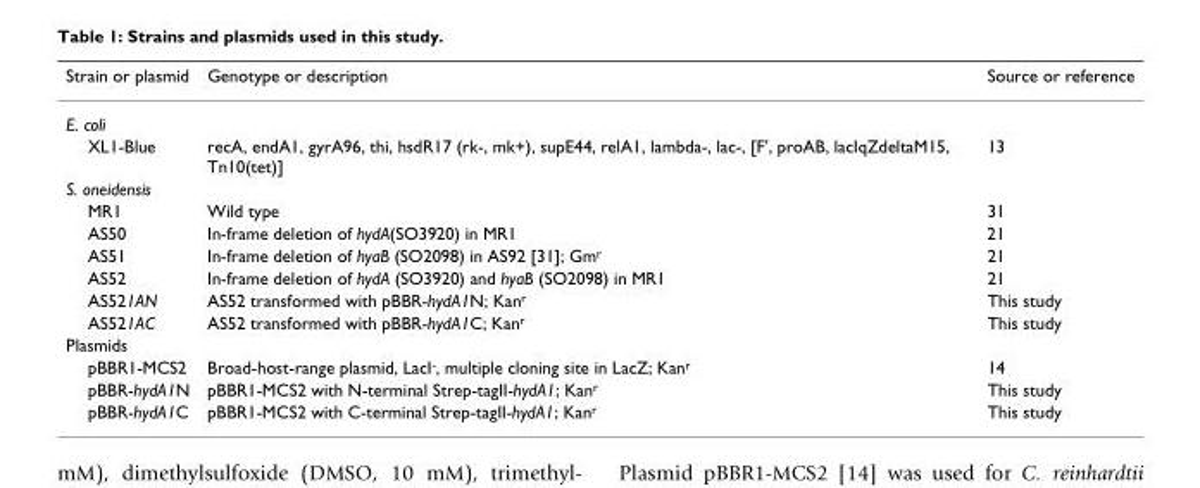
<table><thead><tr><td>Strain or plasmid</td><td>Genotype or description</td><td>Source or reference</td></tr></thead><tbody><tr><td colspan="3">E. coli</td></tr><tr><td>XL1-Blue</td><td>recA, endA1, gyrA96, thi, hsdR17 (rk-, mk+), supE44, relA1, lambda-, lac-, [F&#x27;, proAB, lacIqZdeltaM15, Tn10(tet)]</td><td>13</td></tr><tr><td colspan="3">S. oneidensis</td></tr><tr><td>MR1</td><td>Wild type</td><td>31</td></tr><tr><td>AS50</td><td>In-frame deletion of hydA(SO3920) in MR1</td><td>21</td></tr><tr><td>AS51</td><td>In-frame deletion of hyaB (SO2098) in AS92 [31]; Gm<sup>r</sup></td><td>21</td></tr><tr><td>AS52</td><td>In-frame deletion of hydA (SO3920) and hyaB (SO2098) in MR1</td><td>21</td></tr><tr><td>AS521AN</td><td>AS52 transformed with pBBR-hydA1N; Kan<sup>r</sup></td><td>This study</td></tr><tr><td>AS521AC</td><td>AS52 transformed with pBBR-hydA1C; Kan<sup>r</sup></td><td>This study</td></tr><tr><td colspan="3">Plasmids</td></tr><tr><td>pBBR1-MCS2</td><td>Broad-host-range plasmid, LacI<sup>-</sup>, multiple cloning site in LacZ; Kan<sup>r</sup></td><td>14</td></tr><tr><td>pBBR-hydA1N</td><td>pBBR1-MCS2 with N-terminal Strep-tagII-hydA1; Kan<sup>r</sup></td><td>This study</td></tr><tr><td>pBBR-hydA1C</td><td>pBBR1-MCS2 with C-terminal Strep-tagII-hydA1; Kan<sup>r</sup></td><td>This study</td></tr></tbody></table>